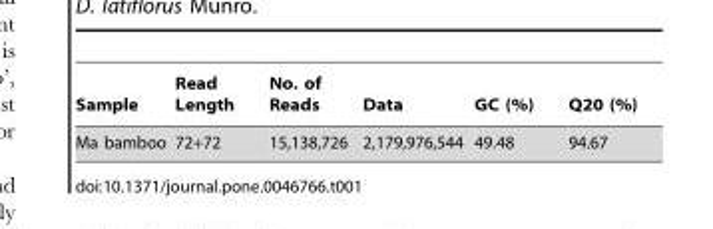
<table><thead><tr><td>Sample</td><td>Read Length</td><td>No. of Reads</td><td>Data</td><td>GC (%)</td><td>Q20 (%)</td></tr></thead><tbody><tr><td>Ma bamboo</td><td>72+72</td><td>15,138,726</td><td>2,179,976,544</td><td>49.48</td><td>94.67</td></tr></tbody></table>